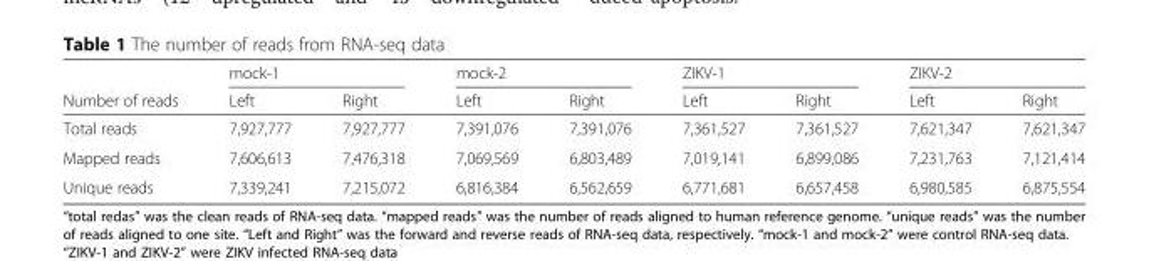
<table><thead><tr><td rowspan="2">Number of reads</td><td colspan="2">mock-1</td><td colspan="2">mock-2</td><td colspan="2">ZIKV-1</td><td colspan="2">ZIKV-2</td></tr><tr><td>Left</td><td>Right</td><td>Left</td><td>Right</td><td>Left</td><td>Right</td><td>Left</td><td>Right</td></tr></thead><tbody><tr><td>Total reads</td><td>7,927,777</td><td>7,927,777</td><td>7,391,076</td><td>7,391,076</td><td>7,361,527</td><td>7,361,527</td><td>7,621,347</td><td>7,621,347</td></tr><tr><td>Mapped reads</td><td>7,606,613</td><td>7,476,318</td><td>7,069,569</td><td>6,803,489</td><td>7,019,141</td><td>6,899,086</td><td>7,231,763</td><td>7,121,414</td></tr><tr><td>Unique reads</td><td>7,339,241</td><td>7,215,072</td><td>6,816,384</td><td>6,562,659</td><td>6,771,681</td><td>6,657,458</td><td>6,980,585</td><td>6,875,554</td></tr></tbody></table>